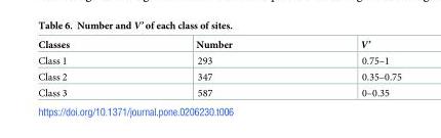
<table><thead><tr><td>Classes</td><td>Number</td><td>V’</td></tr></thead><tbody><tr><td>Class 1</td><td>293</td><td>0.75–1</td></tr><tr><td>Class 2</td><td>347</td><td>0.35–0.75</td></tr><tr><td>Class 3</td><td>587</td><td>0–0.35</td></tr></tbody></table>